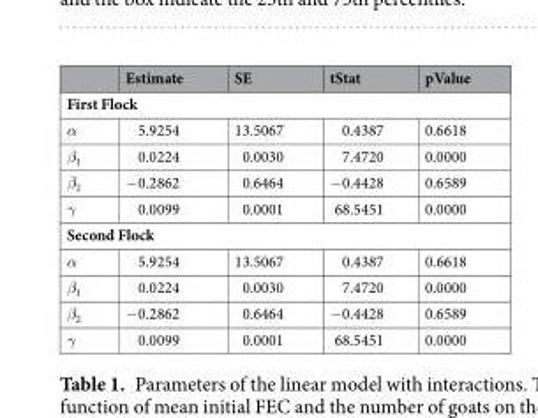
<table><thead><tr><td></td><td>Estimate</td><td>SE</td><td>tStat</td><td>pValue</td></tr></thead><tbody><tr><td colspan="5">First Flock</td></tr><tr><td>α</td><td>5.9254</td><td>13.5067</td><td>0.4387</td><td>0.6618</td></tr><tr><td>β<sub>1</sub></td><td>0.0224</td><td>0.0030</td><td>7.4720</td><td>0.0000</td></tr><tr><td>β<sub>2</sub></td><td>−0.2862</td><td>0.6464</td><td>−0.4428</td><td>0.6589</td></tr><tr><td>γ</td><td>0.0099</td><td>0.0001</td><td>68.5451</td><td>0.0000</td></tr><tr><td colspan="5">Second Flock</td></tr><tr><td>α</td><td>5.9254</td><td>13.5067</td><td>0.4387</td><td>0.6618</td></tr><tr><td>β<sub>1</sub></td><td>0.0224</td><td>0.0030</td><td>7.4720</td><td>0.0000</td></tr><tr><td>β<sub>2</sub></td><td>−0.2862</td><td>0.6464</td><td>−0.4428</td><td>0.6589</td></tr><tr><td>γ</td><td>0.0099</td><td>0.0001</td><td>68.5451</td><td>0.0000</td></tr></tbody></table>